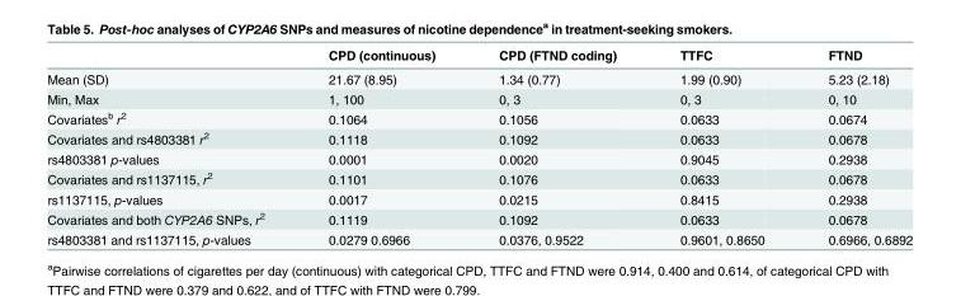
<table><thead><tr><td></td><td>CPD (continuous)</td><td>CPD (FTND coding)</td><td>TTFC</td><td>FTND</td></tr></thead><tbody><tr><td>Mean (SD)</td><td>21.67 (8.95)</td><td>1.34 (0.77)</td><td>1.99 (0.90)</td><td>5.23 (2.18)</td></tr><tr><td>Min, Max</td><td>1, 100</td><td>0, 3</td><td>0, 3</td><td>0, 10</td></tr><tr><td>Covariates<sup>b</sup> r<sup>2</sup></td><td>0.1064</td><td>0.1056</td><td>0.0633</td><td>0.0674</td></tr><tr><td>Covariates and rs4803381 r<sup>2</sup></td><td>0.1118</td><td>0.1092</td><td>0.0633</td><td>0.0678</td></tr><tr><td>rs4803381 p-values</td><td>0.0001</td><td>0.0020</td><td>0.9045</td><td>0.2938</td></tr><tr><td>Covariates and rs1137115, r<sup>2</sup></td><td>0.1101</td><td>0.1076</td><td>0.0633</td><td>0.0678</td></tr><tr><td>rs1137115, p-values</td><td>0.0017</td><td>0.0215</td><td>0.8415</td><td>0.2938</td></tr><tr><td>Covariates and both CYP2A6 SNPs, r<sup>2</sup></td><td>0.1119</td><td>0.1092</td><td>0.0633</td><td>0.0678</td></tr><tr><td>rs4803381 and rs1137115, p-values</td><td>0.0279 0.6966</td><td>0.0376, 0.9522</td><td>0.9601, 0.8650</td><td>0.6966, 0.6892</td></tr></tbody></table>